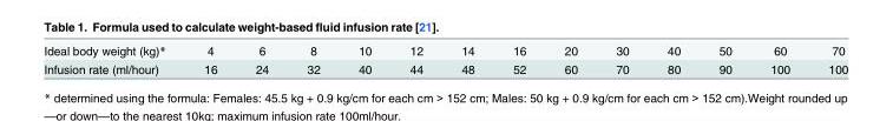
<table><tbody><tr><td>Ideal body weight (kg)*</td><td>4</td><td>6</td><td>8</td><td>10</td><td>12</td><td>14</td><td>16</td><td>20</td><td>30</td><td>40</td><td>50</td><td>60</td><td>70</td></tr><tr><td>Infusion rate (ml/hour)</td><td>16</td><td>24</td><td>32</td><td>40</td><td>44</td><td>48</td><td>52</td><td>60</td><td>70</td><td>80</td><td>90</td><td>100</td><td>100</td></tr></tbody></table>